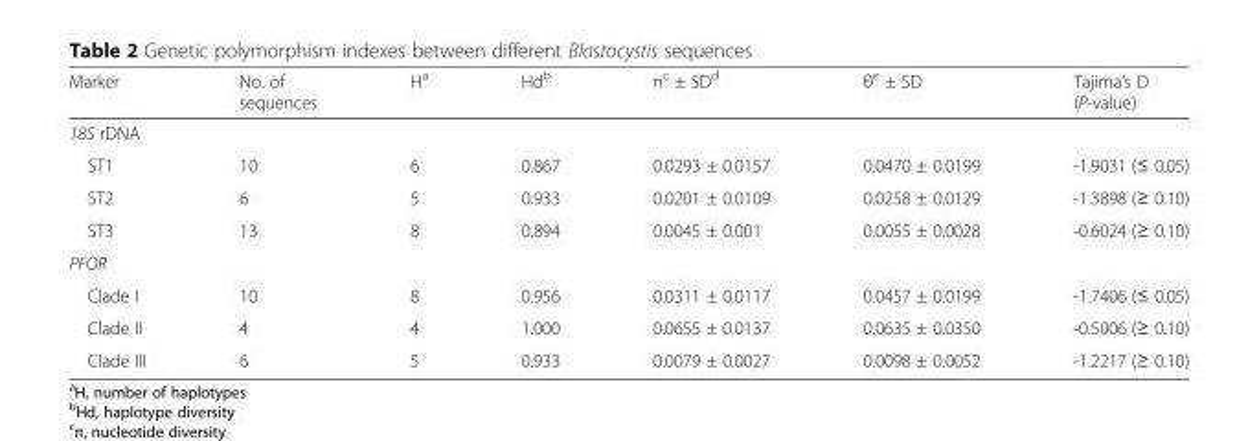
<table><thead><tr><td>Marker</td><td>No. of sequences</td><td>H<sup>a</sup></td><td>Hd<sup>b</sup></td><td>π<sup>c</sup> ± SD<sup>d</sup></td><td>θ<sup>e</sup> ± SD</td><td>Tajima’s D (P-value)</td></tr></thead><tbody><tr><td colspan="7">18S rDNA</td></tr><tr><td>ST1</td><td>10</td><td>6</td><td>0.867</td><td>0.0293 ± 0.0157</td><td>0.0470 ± 0.0199</td><td>-1.9031 (≤ 0.05)</td></tr><tr><td>ST2</td><td>6</td><td>5</td><td>0.933</td><td>0.0201 ± 0.0109</td><td>0.0258 ± 0.0129</td><td>-1.3898 (≥ 0.10)</td></tr><tr><td>ST3</td><td>13</td><td>8</td><td>0.894</td><td>0.0045 ± 0.001</td><td>0.0055 ± 0.0028</td><td>-0.6024 (≥ 0.10)</td></tr><tr><td colspan="7">PFOR</td></tr><tr><td>Clade I</td><td>10</td><td>8</td><td>0.956</td><td>0.0311 ± 0.0117</td><td>0.0457 ± 0.0199</td><td>-1.7406 (≤ 0.05)</td></tr><tr><td>Clade II</td><td>4</td><td>4</td><td>1.000</td><td>0.0655 ± 0.0137</td><td>0.0635 ± 0.0350</td><td>-0.5006 (≥ 0.10)</td></tr><tr><td>Clade III</td><td>6</td><td>5</td><td>0.933</td><td>0.0079 ± 0.0027</td><td>0.0098 ± 0.0052</td><td>-1.2217 (≥ 0.10)</td></tr></tbody></table>